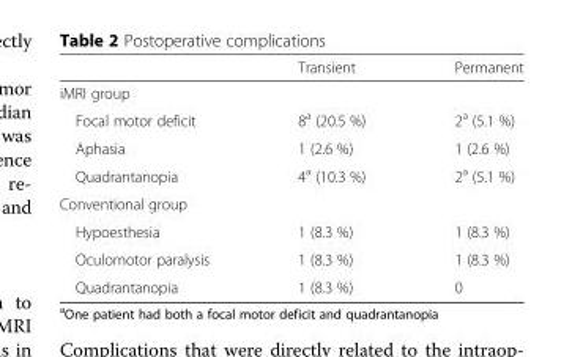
<table><thead><tr><td></td><td>Transient</td><td>Permanent</td></tr></thead><tbody><tr><td colspan="3">iMRI group</td></tr><tr><td>Focal motor deficit</td><td>8<sup>a</sup> (20.5 %)</td><td>2<sup>a</sup> (5.1 %)</td></tr><tr><td>Aphasia</td><td>1 (2.6 %)</td><td>1 (2.6 %)</td></tr><tr><td>Quadrantanopia</td><td>4<sup>a</sup> (10.3 %)</td><td>2<sup>a</sup> (5.1 %)</td></tr><tr><td colspan="3">Conventional group</td></tr><tr><td>Hypoesthesia</td><td>1 (8.3 %)</td><td>1 (8.3 %)</td></tr><tr><td>Oculomotor paralysis</td><td>1 (8.3 %)</td><td>1 (8.3 %)</td></tr><tr><td>Quadrantanopia</td><td>1 (8.3 %)</td><td>0</td></tr></tbody></table>